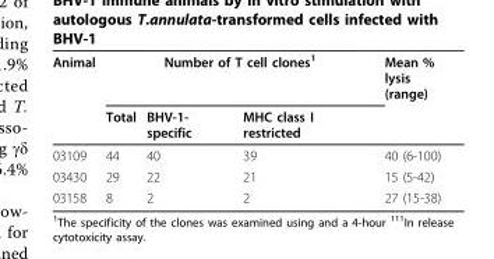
<table><thead><tr><td rowspan="2">Animal</td><td colspan="3">Number of T cell clones<sup>1</sup></td><td rowspan="2">Mean % lysis (range)</td></tr><tr><td>Total</td><td>BHV-1- specific</td><td>MHC class I restricted</td></tr></thead><tbody><tr><td>03109</td><td>44</td><td>40</td><td>39</td><td>40 (6-100)</td></tr><tr><td>03430</td><td>29</td><td>22</td><td>21</td><td>15 (5-42)</td></tr><tr><td>03158</td><td>8</td><td>2</td><td>2</td><td>27 (15-38)</td></tr></tbody></table>